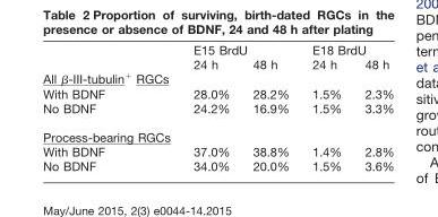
<table><thead><tr><td rowspan="2"></td><td colspan="2">E15 BrdU</td><td colspan="2">E18 BrdU</td></tr><tr><td>24 h</td><td>48 h</td><td>24 h</td><td>48 h</td></tr></thead><tbody><tr><td colspan="5">All β-III-tubulin<sup>+</sup> RGCs</td></tr><tr><td>With BDNF</td><td>28.0%</td><td>28.2%</td><td>1.5%</td><td>2.3%</td></tr><tr><td>No BDNF</td><td>24.2%</td><td>16.9%</td><td>1.5%</td><td>3.3%</td></tr><tr><td colspan="5">Process-bearing RGCs</td></tr><tr><td>With BDNF</td><td>37.0%</td><td>38.8%</td><td>1.4%</td><td>2.8%</td></tr><tr><td>No BDNF</td><td>34.0%</td><td>20.0%</td><td>1.5%</td><td>3.6%</td></tr></tbody></table>